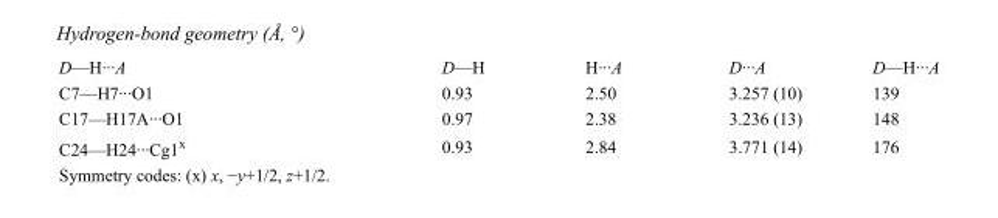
<table><tbody><tr><td>D—H···A</td><td>D—H</td><td>H···A</td><td>D···A</td><td>D—H···A</td></tr><tr><td>C7—H7···O1</td><td>0.93</td><td>2.50</td><td>3.257 (10)</td><td>139</td></tr><tr><td>C17—H17A···O1</td><td>0.97</td><td>2.38</td><td>3.236 (13)</td><td>148</td></tr><tr><td>C24—H24···Cg1<sup>x</sup></td><td>0.93</td><td>2.84</td><td>3.771 (14)</td><td>176</td></tr></tbody></table>